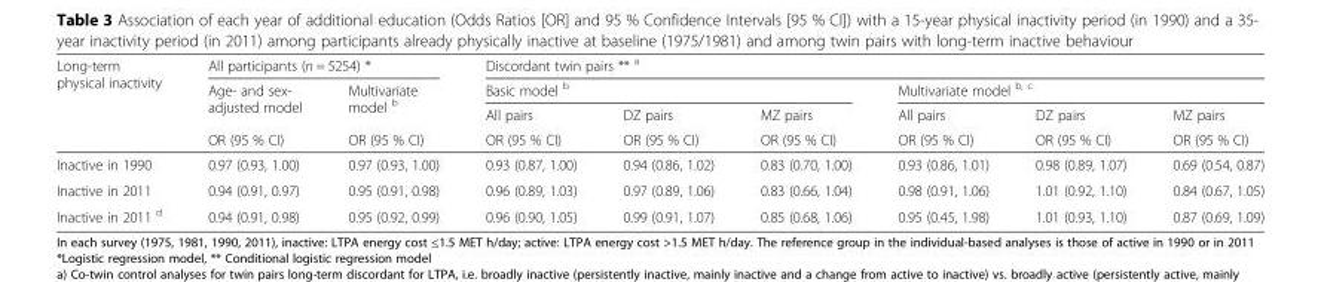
<table><thead><tr><td rowspan="4">Long-term physical inactivity</td><td colspan="2">All participants (n = 5254) *</td><td colspan="6">Discordant twin pairs ** <sup>a</sup></td></tr><tr><td rowspan="3">Age- and sex- adjusted model OR (95 % CI)</td><td rowspan="3">Multivariate model <sup>b</sup> OR (95 % CI)</td><td colspan="3">Basic model <sup>b</sup></td><td colspan="3">Multivariate model <sup>b, c</sup></td></tr><tr><td rowspan="2">All pairs OR (95 % CI)</td><td rowspan="2">DZ pairs OR (95 % CI)</td><td rowspan="2">MZ pairs OR (95 % CI)</td><td rowspan="2">All pairs OR (95 % CI)</td><td rowspan="2">DZ pairs OR (95 % CI)</td><td rowspan="2">MZ pairs OR (95 % CI)</td></tr><tr></tr></thead><tbody><tr><td>Inactive in 1990</td><td>0.97 (0.93, 1.00)</td><td>0.97 (0.93, 1.00)</td><td>0.93 (0.87, 1.00)</td><td>0.94 (0.86, 1.02)</td><td>0.83 (0.70, 1.00)</td><td>0.93 (0.86, 1.01)</td><td>0.98 (0.89, 1.07)</td><td>0.69 (0.54, 0.87)</td></tr><tr><td>Inactive in 2011</td><td>0.94 (0.91, 0.97)</td><td>0.95 (0.91, 0.98)</td><td>0.96 (0.89, 1.03)</td><td>0.97 (0.89, 1.06)</td><td>0.83 (0.66, 1.04)</td><td>0.98 (0.91, 1.06)</td><td>1.01 (0.92, 1.10)</td><td>0.84 (0.67, 1.05)</td></tr><tr><td>Inactive in 2011 <sup>d</sup></td><td>0.94 (0.91, 0.98)</td><td>0.95 (0.92, 0.99)</td><td>0.96 (0.90, 1.05)</td><td>0.99 (0.91, 1.07)</td><td>0.85 (0.68, 1.06)</td><td>0.95 (0.45, 1.98)</td><td>1.01 (0.93, 1.10)</td><td>0.87 (0.69, 1.09)</td></tr></tbody></table>